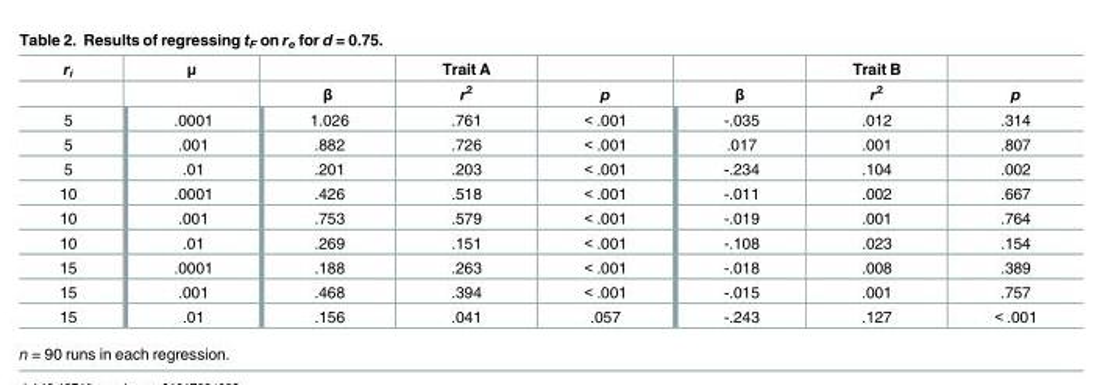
<table><thead><tr><td rowspan="2">r<sub>i</sub></td><td rowspan="2">μ</td><td rowspan="2">β</td><td rowspan="2">Trait A r<sup>2</sup></td><td rowspan="2">p</td><td rowspan="2">β</td><td rowspan="2">Trait B r<sup>2</sup></td><td rowspan="2">p</td></tr><tr></tr></thead><tbody><tr><td>5</td><td>.0001</td><td>1.026</td><td>.761</td><td>&lt; .001</td><td>-.035</td><td>.012</td><td>.314</td></tr><tr><td>5</td><td>.001</td><td>.882</td><td>.726</td><td>&lt; .001</td><td>.017</td><td>.001</td><td>.807</td></tr><tr><td>5</td><td>.01</td><td>.201</td><td>.203</td><td>&lt; .001</td><td>-.234</td><td>.104</td><td>.002</td></tr><tr><td>10</td><td>.0001</td><td>.426</td><td>.518</td><td>&lt; .001</td><td>-.011</td><td>.002</td><td>.667</td></tr><tr><td>10</td><td>.001</td><td>.753</td><td>.579</td><td>&lt; .001</td><td>-.019</td><td>.001</td><td>.764</td></tr><tr><td>10</td><td>.01</td><td>.269</td><td>.151</td><td>&lt; .001</td><td>-.108</td><td>.023</td><td>.154</td></tr><tr><td>15</td><td>.0001</td><td>.188</td><td>.263</td><td>&lt; .001</td><td>-.018</td><td>.008</td><td>.389</td></tr><tr><td>15</td><td>.001</td><td>.468</td><td>.394</td><td>&lt; .001</td><td>-.015</td><td>.001</td><td>.757</td></tr><tr><td>15</td><td>.01</td><td>.156</td><td>.041</td><td>.057</td><td>-.243</td><td>.127</td><td>&lt; .001</td></tr></tbody></table>